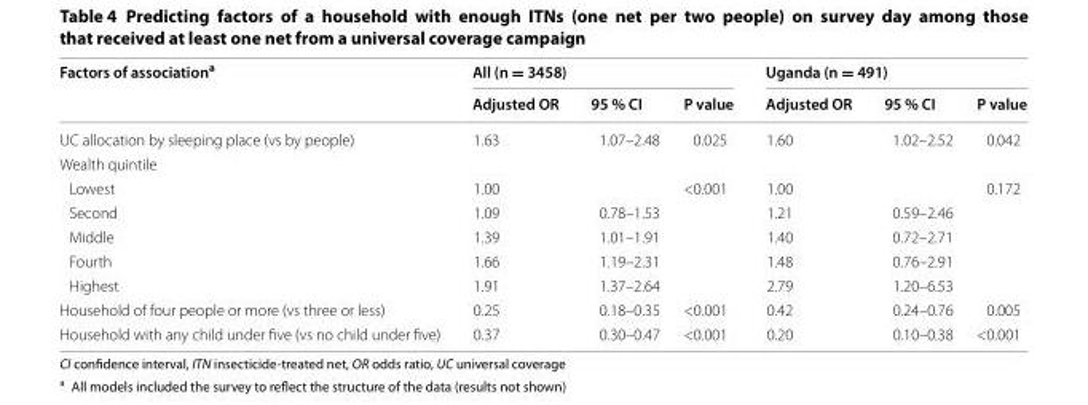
<table><thead><tr><td rowspan="2">Factors of association<sup>a</sup></td><td colspan="3">All (n = 3458)</td><td colspan="3">Uganda (n = 491)</td></tr><tr><td>Adjusted OR</td><td>95 % CI</td><td>P value</td><td>Adjusted OR</td><td>95 % CI</td><td>P value</td></tr></thead><tbody><tr><td>UC allocation by sleeping place (vs by people)</td><td>1.63</td><td>1.07–2.48</td><td>0.025</td><td>1.60</td><td>1.02–2.52</td><td>0.042</td></tr><tr><td colspan="7">Wealth quintile</td></tr><tr><td>Lowest</td><td>1.00</td><td></td><td rowspan="5">&lt;0.001</td><td>1.00</td><td></td><td rowspan="5">0.172</td></tr><tr><td>Second</td><td>1.09</td><td>0.78–1.53</td><td>1.21</td><td>0.59–2.46</td></tr><tr><td>Middle</td><td>1.39</td><td>1.01–1.91</td><td>1.40</td><td>0.72–2.71</td></tr><tr><td>Fourth</td><td>1.66</td><td>1.19–2.31</td><td>1.48</td><td>0.76–2.91</td></tr><tr><td>Highest</td><td>1.91</td><td>1.37–2.64</td><td>2.79</td><td>1.20–6.53</td></tr><tr><td>Household of four people or more (vs three or less)</td><td>0.25</td><td>0.18–0.35</td><td>&lt;0.001</td><td>0.42</td><td>0.24–0.76</td><td>0.005</td></tr><tr><td>Household with any child under five (vs no child under five)</td><td>0.37</td><td>0.30–0.47</td><td>&lt;0.001</td><td>0.20</td><td>0.10–0.38</td><td>&lt;0.001</td></tr></tbody></table>